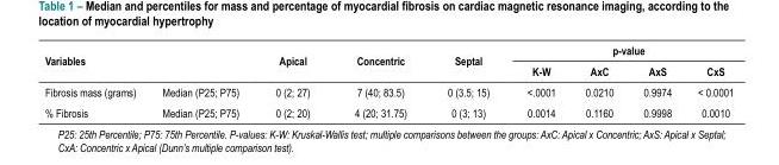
<table><thead><tr><td rowspan="2">Variables</td><td rowspan="2"></td><td rowspan="2">Apical</td><td rowspan="2">Concentric</td><td rowspan="2">Septal</td><td colspan="4">p-value</td></tr><tr><td>K-W</td><td>AxC</td><td>AxS</td><td>CxS</td></tr></thead><tbody><tr><td>Fibrosis mass (grams)</td><td>Median (P25; P75)</td><td>0 (2; 27)</td><td>7 (40; 83.5)</td><td>0 (3.5; 15)</td><td>&lt;.0001</td><td>0.0210</td><td>0.9974</td><td>&lt; 0.0001</td></tr><tr><td>% Fibrosis</td><td>Median (P25; P75)</td><td>0 (2; 20)</td><td>4 (20; 31.75)</td><td>0 (3; 13)</td><td>0.0014</td><td>0.1160</td><td>0.9998</td><td>0.0010</td></tr></tbody></table>